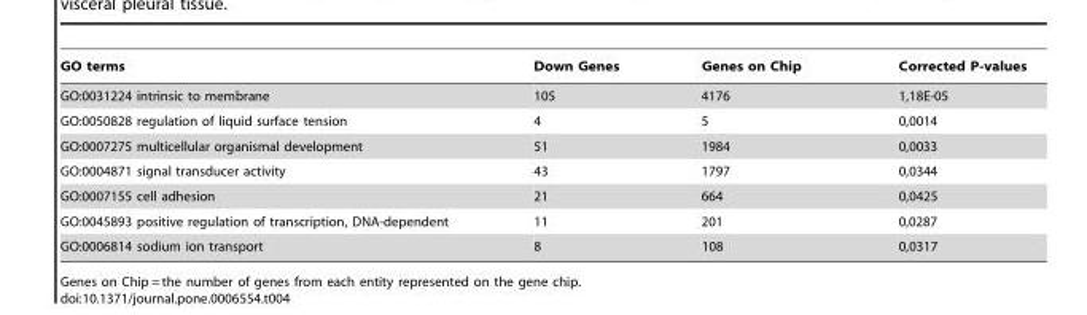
<table><thead><tr><td>GO terms</td><td>Down Genes</td><td>Genes on Chip</td><td>Corrected P-values</td></tr></thead><tbody><tr><td>GO:0031224 intrinsic to membrane</td><td>105</td><td>4176</td><td>1,18E-05</td></tr><tr><td>GO:0050828 regulation of liquid surface tension</td><td>4</td><td>5</td><td>0,0014</td></tr><tr><td>GO:0007275 multicellular organismal development</td><td>51</td><td>1984</td><td>0,0033</td></tr><tr><td>GO:0004871 signal transducer activity</td><td>43</td><td>1797</td><td>0,0344</td></tr><tr><td>GO:0007155 cell adhesion</td><td>21</td><td>664</td><td>0,0425</td></tr><tr><td>GO:0045893 positive regulation of transcription, DNA-dependent</td><td>11</td><td>201</td><td>0,0287</td></tr><tr><td>GO:0006814 sodium ion transport</td><td>8</td><td>108</td><td>0,0317</td></tr></tbody></table>